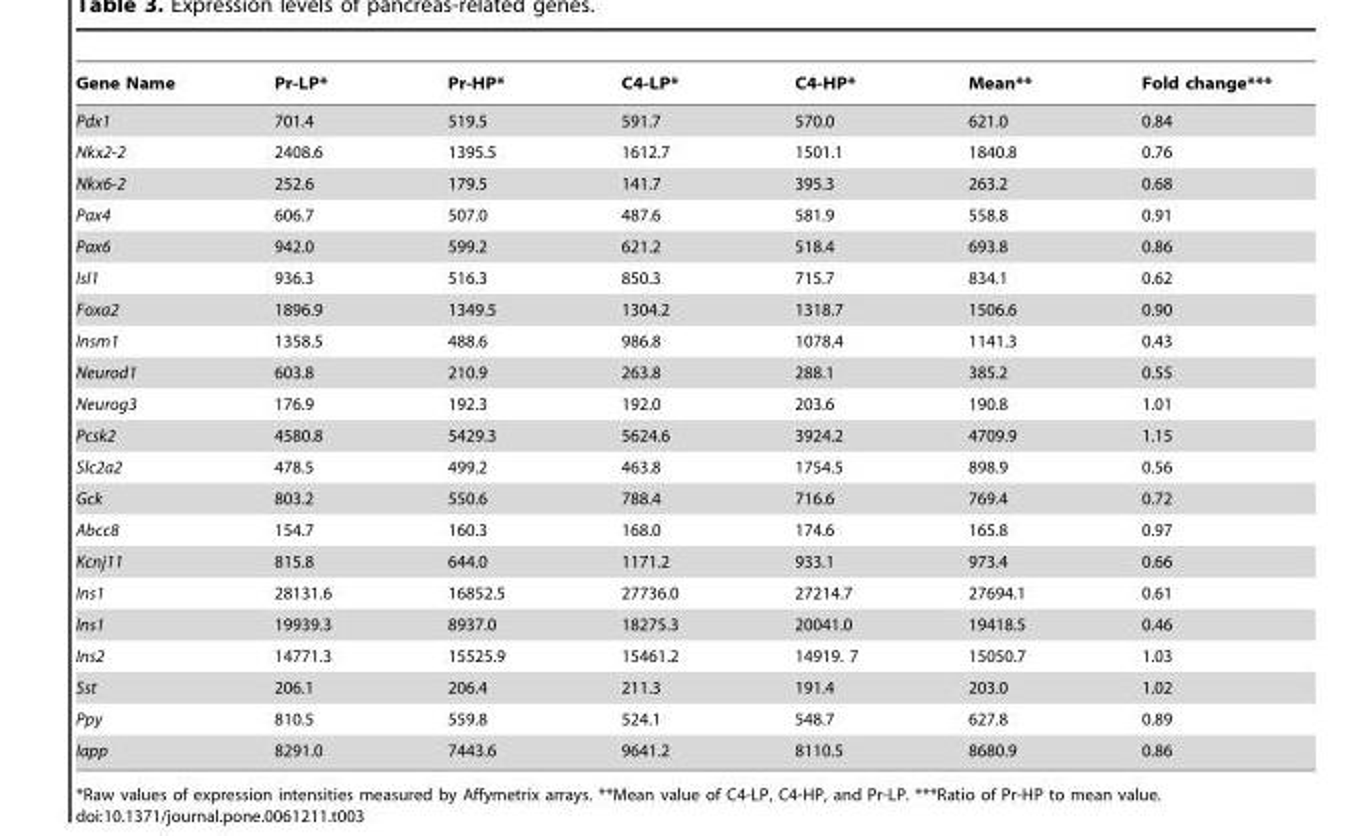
<table><thead><tr><td>Gene Name</td><td>Pr-LP*</td><td>Pr-HP*</td><td>C4-LP*</td><td>C4-HP*</td><td>Mean**</td><td>Fold change***</td></tr></thead><tbody><tr><td>Pdx1</td><td>701.4</td><td>519.5</td><td>591.7</td><td>570.0</td><td>621.0</td><td>0.84</td></tr><tr><td>Nkx2-2</td><td>2408.6</td><td>1395.5</td><td>1612.7</td><td>1501.1</td><td>1840.8</td><td>0.76</td></tr><tr><td>Nkx6-2</td><td>252.6</td><td>179.5</td><td>141.7</td><td>395.3</td><td>263.2</td><td>0.68</td></tr><tr><td>Pax4</td><td>606.7</td><td>507.0</td><td>487.6</td><td>581.9</td><td>558.8</td><td>0.91</td></tr><tr><td>Pax6</td><td>942.0</td><td>599.2</td><td>621.2</td><td>518.4</td><td>693.8</td><td>0.86</td></tr><tr><td>Isl1</td><td>936.3</td><td>516.3</td><td>850.3</td><td>715.7</td><td>834.1</td><td>0.62</td></tr><tr><td>Foxa2</td><td>1896.9</td><td>1349.5</td><td>1304.2</td><td>1318.7</td><td>1506.6</td><td>0.90</td></tr><tr><td>Insm1</td><td>1358.5</td><td>488.6</td><td>986.8</td><td>1078.4</td><td>1141.3</td><td>0.43</td></tr><tr><td>Neurod1</td><td>603.8</td><td>210.9</td><td>263.8</td><td>288.1</td><td>385.2</td><td>0.55</td></tr><tr><td>Neurog3</td><td>176.9</td><td>192.3</td><td>192.0</td><td>203.6</td><td>190.8</td><td>1.01</td></tr><tr><td>Pcsk2</td><td>4580.8</td><td>5429.3</td><td>5624.6</td><td>3924.2</td><td>4709.9</td><td>1.15</td></tr><tr><td>Slc2a2</td><td>478.5</td><td>499.2</td><td>463.8</td><td>1754.5</td><td>898.9</td><td>0.56</td></tr><tr><td>Gck</td><td>803.2</td><td>550.6</td><td>788.4</td><td>716.6</td><td>769.4</td><td>0.72</td></tr><tr><td>Abcc8</td><td>154.7</td><td>160.3</td><td>168.0</td><td>174.6</td><td>165.8</td><td>0.97</td></tr><tr><td>Kcnj11</td><td>815.8</td><td>644.0</td><td>1171.2</td><td>933.1</td><td>973.4</td><td>0.66</td></tr><tr><td>Ins1</td><td>28131.6</td><td>16852.5</td><td>27736.0</td><td>27214.7</td><td>27694.1</td><td>0.61</td></tr><tr><td>Ins1</td><td>19939.3</td><td>8937.0</td><td>18275.3</td><td>20041.0</td><td>19418.5</td><td>0.46</td></tr><tr><td>Ins2</td><td>14771.3</td><td>15525.9</td><td>15461.2</td><td>14919. 7</td><td>15050.7</td><td>1.03</td></tr><tr><td>Sst</td><td>206.1</td><td>206.4</td><td>211.3</td><td>191.4</td><td>203.0</td><td>1.02</td></tr><tr><td>Ppy</td><td>810.5</td><td>559.8</td><td>524.1</td><td>548.7</td><td>627.8</td><td>0.89</td></tr><tr><td>Iapp</td><td>8291.0</td><td>7443.6</td><td>9641.2</td><td>8110.5</td><td>8680.9</td><td>0.86</td></tr></tbody></table>